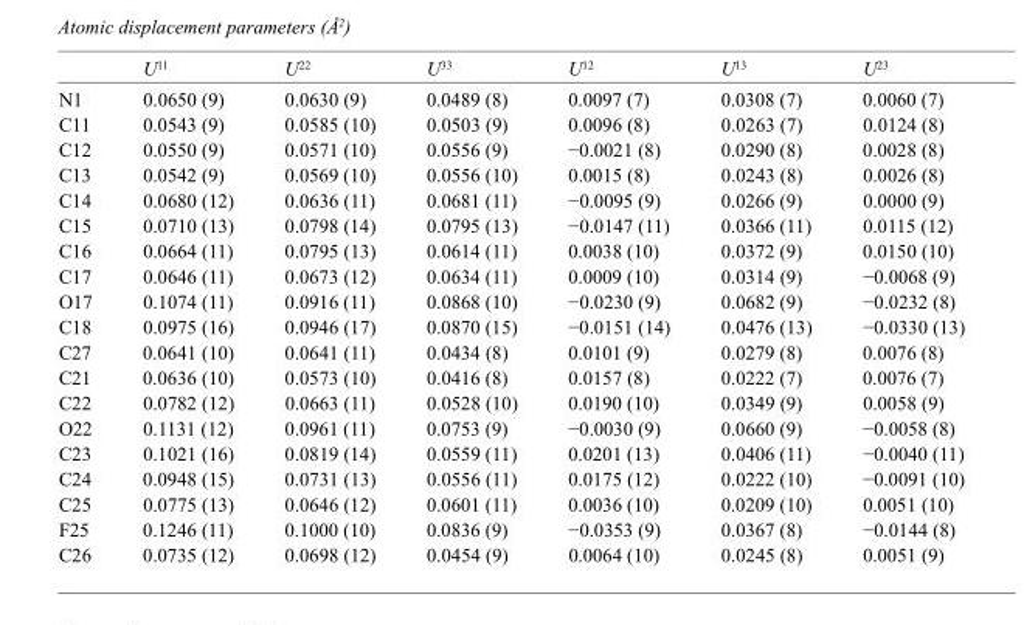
<table><thead><tr><td></td><td>U<sup>11</sup></td><td>U<sup>22</sup></td><td>U<sup>33</sup></td><td>U<sup>12</sup></td><td>U<sup>13</sup></td><td>U<sup>23</sup></td></tr></thead><tbody><tr><td>N1</td><td>0.0650 (9)</td><td>0.0630 (9)</td><td>0.0489 (8)</td><td>0.0097 (7)</td><td>0.0308 (7)</td><td>0.0060 (7)</td></tr><tr><td>C11</td><td>0.0543 (9)</td><td>0.0585 (10)</td><td>0.0503 (9)</td><td>0.0096 (8)</td><td>0.0263 (7)</td><td>0.0124 (8)</td></tr><tr><td>C12</td><td>0.0550 (9)</td><td>0.0571 (10)</td><td>0.0556 (9)</td><td>−0.0021 (8)</td><td>0.0290 (8)</td><td>0.0028 (8)</td></tr><tr><td>C13</td><td>0.0542 (9)</td><td>0.0569 (10)</td><td>0.0556 (10)</td><td>0.0015 (8)</td><td>0.0243 (8)</td><td>0.0026 (8)</td></tr><tr><td>C14</td><td>0.0680 (12)</td><td>0.0636 (11)</td><td>0.0681 (11)</td><td>−0.0095 (9)</td><td>0.0266 (9)</td><td>0.0000 (9)</td></tr><tr><td>C15</td><td>0.0710 (13)</td><td>0.0798 (14)</td><td>0.0795 (13)</td><td>−0.0147 (11)</td><td>0.0366 (11)</td><td>0.0115 (12)</td></tr><tr><td>C16</td><td>0.0664 (11)</td><td>0.0795 (13)</td><td>0.0614 (11)</td><td>0.0038 (10)</td><td>0.0372 (9)</td><td>0.0150 (10)</td></tr><tr><td>C17</td><td>0.0646 (11)</td><td>0.0673 (12)</td><td>0.0634 (11)</td><td>0.0009 (10)</td><td>0.0314 (9)</td><td>−0.0068 (9)</td></tr><tr><td>O17</td><td>0.1074 (11)</td><td>0.0916 (11)</td><td>0.0868 (10)</td><td>−0.0230 (9)</td><td>0.0682 (9)</td><td>−0.0232 (8)</td></tr><tr><td>C18</td><td>0.0975 (16)</td><td>0.0946 (17)</td><td>0.0870 (15)</td><td>−0.0151 (14)</td><td>0.0476 (13)</td><td>−0.0330 (13)</td></tr><tr><td>C27</td><td>0.0641 (10)</td><td>0.0641 (11)</td><td>0.0434 (8)</td><td>0.0101 (9)</td><td>0.0279 (8)</td><td>0.0076 (8)</td></tr><tr><td>C21</td><td>0.0636 (10)</td><td>0.0573 (10)</td><td>0.0416 (8)</td><td>0.0157 (8)</td><td>0.0222 (7)</td><td>0.0076 (7)</td></tr><tr><td>C22</td><td>0.0782 (12)</td><td>0.0663 (11)</td><td>0.0528 (10)</td><td>0.0190 (10)</td><td>0.0349 (9)</td><td>0.0058 (9)</td></tr><tr><td>O22</td><td>0.1131 (12)</td><td>0.0961 (11)</td><td>0.0753 (9)</td><td>−0.0030 (9)</td><td>0.0660 (9)</td><td>−0.0058 (8)</td></tr><tr><td>C23</td><td>0.1021 (16)</td><td>0.0819 (14)</td><td>0.0559 (11)</td><td>0.0201 (13)</td><td>0.0406 (11)</td><td>−0.0040 (11)</td></tr><tr><td>C24</td><td>0.0948 (15)</td><td>0.0731 (13)</td><td>0.0556 (11)</td><td>0.0175 (12)</td><td>0.0222 (10)</td><td>−0.0091 (10)</td></tr><tr><td>C25</td><td>0.0775 (13)</td><td>0.0646 (12)</td><td>0.0601 (11)</td><td>0.0036 (10)</td><td>0.0209 (10)</td><td>0.0051 (10)</td></tr><tr><td>F25</td><td>0.1246 (11)</td><td>0.1000 (10)</td><td>0.0836 (9)</td><td>−0.0353 (9)</td><td>0.0367 (8)</td><td>−0.0144 (8)</td></tr><tr><td>C26</td><td>0.0735 (12)</td><td>0.0698 (12)</td><td>0.0454 (9)</td><td>0.0064 (10)</td><td>0.0245 (8)</td><td>0.0051 (9)</td></tr></tbody></table>